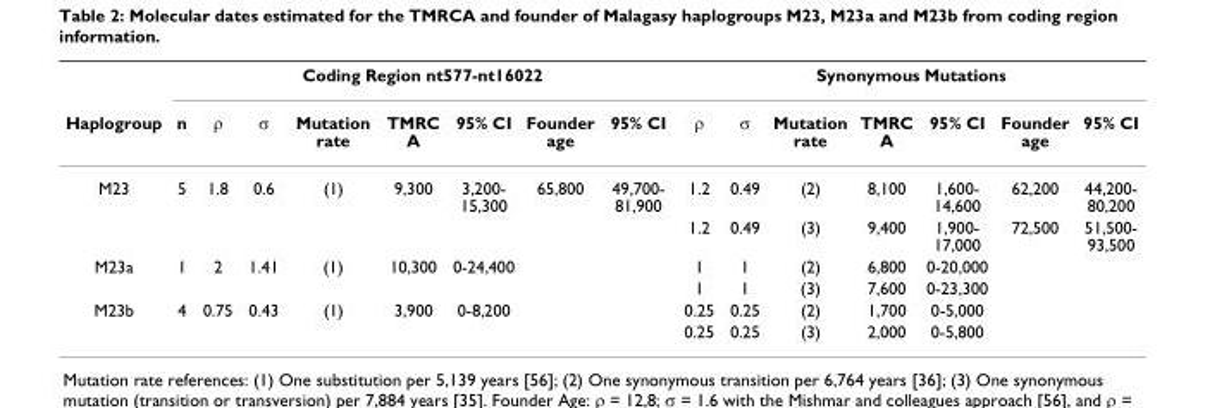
<table><thead><tr><td rowspan="2">Haplogroup</td><td colspan="8">Coding Region nt577-nt16022</td><td colspan="7">Synonymous Mutations</td></tr><tr><td>n</td><td>ρ</td><td>σ</td><td>Mutation rate</td><td>TMRC A</td><td>95% CI</td><td>Founder age</td><td>95% CI</td><td>ρ</td><td>σ</td><td>Mutation rate</td><td>TMRC A</td><td>95% CI</td><td>Founder age</td><td>95% CI</td></tr></thead><tbody><tr><td rowspan="2">M23</td><td>5</td><td>1.8</td><td>0.6</td><td>(1)</td><td>9,300</td><td>3,200- 15,300</td><td>65,800</td><td>49,700- 81,900</td><td>1.2</td><td>0.49</td><td>(2)</td><td>8,100</td><td>1,600- 14,600</td><td>62,200</td><td>44,200- 80,200</td></tr><tr><td></td><td></td><td></td><td></td><td></td><td></td><td></td><td></td><td>1.2</td><td>0.49</td><td>(3)</td><td>9,400</td><td>1,900- 17,000</td><td>72,500</td><td>51,500- 93,500</td></tr><tr><td rowspan="2">M23a</td><td>1</td><td>2</td><td>1.41</td><td>(1)</td><td>10,300</td><td>0-24,400</td><td></td><td></td><td>1</td><td>1</td><td>(2)</td><td>6,800</td><td>0-20,000</td><td></td><td></td></tr><tr><td></td><td></td><td></td><td></td><td></td><td></td><td></td><td></td><td>1</td><td>1</td><td>(3)</td><td>7,600</td><td>0-23,300</td><td></td><td></td></tr><tr><td rowspan="2">M23b</td><td>4</td><td>0.75</td><td>0.43</td><td>(1)</td><td>3,900</td><td>0-8,200</td><td></td><td></td><td>0.25</td><td>0.25</td><td>(2)</td><td>1,700</td><td>0-5,000</td><td></td><td></td></tr><tr><td></td><td></td><td></td><td></td><td></td><td></td><td></td><td></td><td>0.25</td><td>0.25</td><td>(3)</td><td>2,000</td><td>0-5,800</td><td></td><td></td></tr></tbody></table>